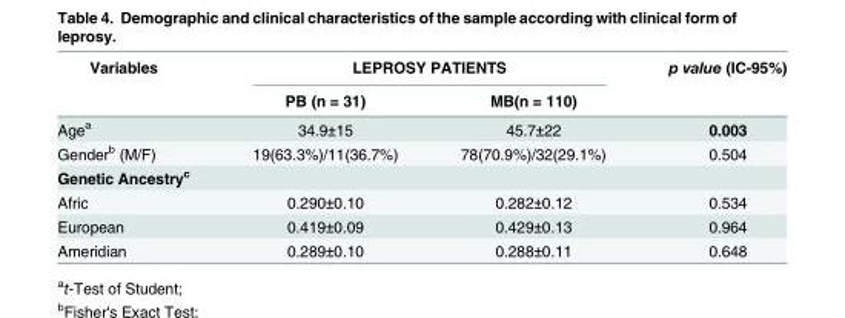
<table><thead><tr><td rowspan="2">Variables</td><td colspan="2">LEPROSY PATIENTS</td><td rowspan="2">p value (IC-95%)</td></tr><tr><td>PB (n = 31)</td><td>MB(n = 110)</td></tr></thead><tbody><tr><td>Age<sup>a</sup></td><td>34.9±15</td><td>45.7±22</td><td>0.003</td></tr><tr><td>Gender<sup>b</sup> (M/F)</td><td>19(63.3%)/11(36.7%)</td><td>78(70.9%)/32(29.1%)</td><td>0.504</td></tr><tr><td colspan="4">Genetic Ancestry<sup>c</sup></td></tr><tr><td>Afric</td><td>0.290±0.10</td><td>0.282±0.12</td><td>0.534</td></tr><tr><td>European</td><td>0.419±0.09</td><td>0.429±0.13</td><td>0.964</td></tr><tr><td>Ameridian</td><td>0.289±0.10</td><td>0.288±0.11</td><td>0.648</td></tr></tbody></table>